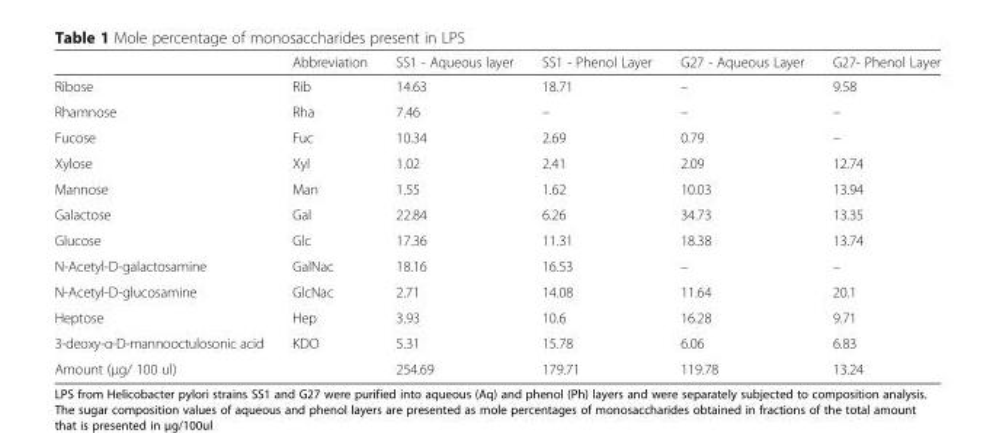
<table><thead><tr><td></td><td>Abbreviation</td><td>SS1 - Aqueous layer</td><td>SS1 - Phenol Layer</td><td>G27 - Aqueous Layer</td><td>G27- Phenol Layer</td></tr></thead><tbody><tr><td>Ribose</td><td>Rib</td><td>14.63</td><td>18.71</td><td>–</td><td>9.58</td></tr><tr><td>Rhamnose</td><td>Rha</td><td>7.46</td><td>–</td><td>–</td><td>–</td></tr><tr><td>Fucose</td><td>Fuc</td><td>10.34</td><td>2.69</td><td>0.79</td><td>–</td></tr><tr><td>Xylose</td><td>Xyl</td><td>1.02</td><td>2.41</td><td>2.09</td><td>12.74</td></tr><tr><td>Mannose</td><td>Man</td><td>1.55</td><td>1.62</td><td>10.03</td><td>13.94</td></tr><tr><td>Galactose</td><td>Gal</td><td>22.84</td><td>6.26</td><td>34.73</td><td>13.35</td></tr><tr><td>Glucose</td><td>Glc</td><td>17.36</td><td>11.31</td><td>18.38</td><td>13.74</td></tr><tr><td>N-Acetyl-D-galactosamine</td><td>GalNac</td><td>18.16</td><td>16.53</td><td>–</td><td>–</td></tr><tr><td>N-Acetyl-D-glucosamine</td><td>GlcNac</td><td>2.71</td><td>14.08</td><td>11.64</td><td>20.1</td></tr><tr><td>Heptose</td><td>Hep</td><td>3.93</td><td>10.6</td><td>16.28</td><td>9.71</td></tr><tr><td>3-deoxy-α-D-mannooctulosonic acid</td><td>KDO</td><td>5.31</td><td>15.78</td><td>6.06</td><td>6.83</td></tr><tr><td>Amount (μg/ 100 ul)</td><td></td><td>254.69</td><td>179.71</td><td>119.78</td><td>13.24</td></tr></tbody></table>